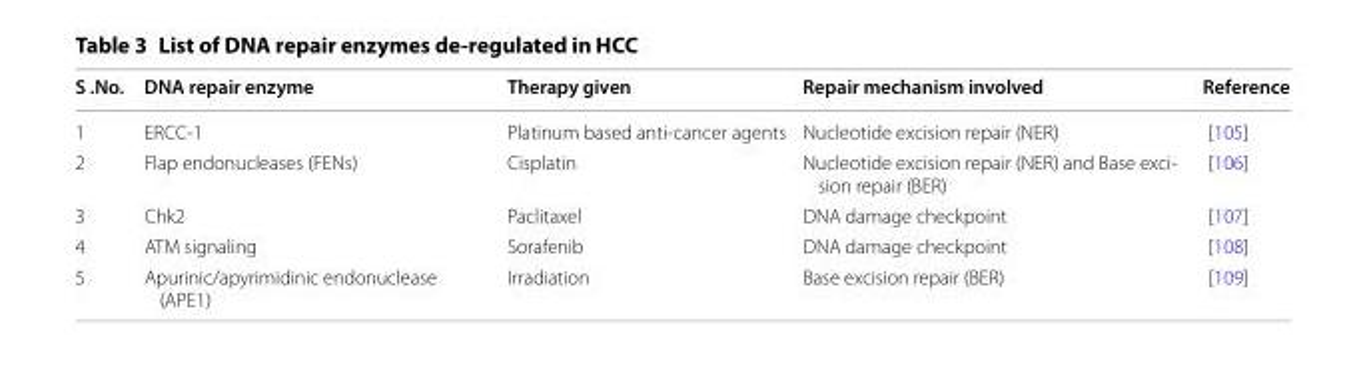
<table><thead><tr><td>S .No.</td><td>DNA repair enzyme</td><td>Therapy given</td><td>Repair mechanism involved</td><td>Reference</td></tr></thead><tbody><tr><td>1</td><td>ERCC‑1</td><td>Platinum based anti‑cancer agents</td><td>Nucleotide excision repair (NER)</td><td>[105]</td></tr><tr><td>2</td><td>Flap endonucleases (FENs)</td><td>Cisplatin</td><td>Nucleotide excision repair (NER) and Base exci‑ sion repair (BER)</td><td>[106]</td></tr><tr><td>3</td><td>Chk2</td><td>Paclitaxel</td><td>DNA damage checkpoint</td><td>[107]</td></tr><tr><td>4</td><td>ATM signaling</td><td>Sorafenib</td><td>DNA damage checkpoint</td><td>[108]</td></tr><tr><td>5</td><td>Apurinic/apyrimidinic endonuclease (APE1)</td><td>Irradiation</td><td>Base excision repair (BER)</td><td>[109]</td></tr></tbody></table>